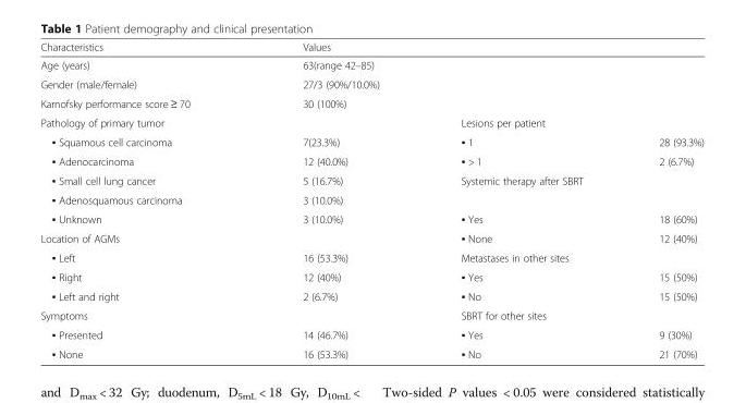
<table><thead><tr><td>Characteristics</td><td colspan="3">Values</td></tr></thead><tbody><tr><td>Age (years)</td><td colspan="3">63(range 42–85)</td></tr><tr><td>Gender (male/female)</td><td colspan="3">27/3 (90%/10.0%)</td></tr><tr><td>Karnofsky performance score ≥ 70</td><td colspan="3">30 (100%)</td></tr><tr><td colspan="2">Pathology of primary tumor</td><td colspan="2">Lesions per patient</td></tr><tr><td>▪ Squamous cell carcinoma</td><td>7(23.3%)</td><td>▪ 1</td><td>28 (93.3%)</td></tr><tr><td>▪ Adenocarcinoma</td><td>12 (40.0%)</td><td>▪ &gt; 1</td><td>2 (6.7%)</td></tr><tr><td>▪ Small cell lung cancer</td><td>5 (16.7%)</td><td rowspan="2" colspan="2">Systemic therapy after SBRT</td></tr><tr><td>▪ Adenosquamous carcinoma</td><td>3 (10.0%)</td></tr><tr><td>▪ Unknown</td><td>3 (10.0%)</td><td>▪ Yes</td><td>18 (60%)</td></tr><tr><td colspan="2">Location of AGMs</td><td>▪ None</td><td>12 (40%)</td></tr><tr><td>▪ Left</td><td>16 (53.3%)</td><td colspan="2">Metastases in other sites</td></tr><tr><td>▪ Right</td><td>12 (40%)</td><td>▪ Yes</td><td>15 (50%)</td></tr><tr><td>▪ Left and right</td><td>2 (6.7%)</td><td>▪ No</td><td>15 (50%)</td></tr><tr><td colspan="2">Symptoms</td><td>SBRT for other sites</td><td></td></tr><tr><td>▪ Presented</td><td>14 (46.7%)</td><td>▪ Yes</td><td>9 (30%)</td></tr><tr><td>▪ None</td><td>16 (53.3%)</td><td>▪ No</td><td>21 (70%)</td></tr></tbody></table>